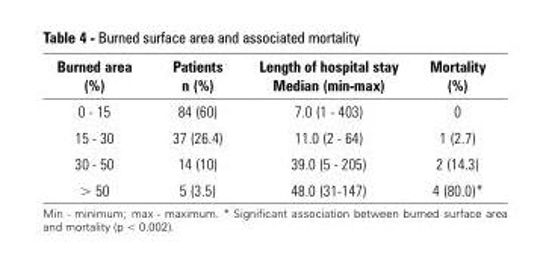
<table><thead><tr><td>Burned area (%)</td><td>Patients n (%)</td><td>Length of hospital stay Median (min-max)</td><td>Mortality (%)</td></tr></thead><tbody><tr><td>0 - 15</td><td>84 (60)</td><td>7.0 (1 - 403)</td><td>0</td></tr><tr><td>15 - 30</td><td>37 (26.4)</td><td>11.0 (2 - 64)</td><td>1 (2.7)</td></tr><tr><td>30 - 50</td><td>14 (10)</td><td>39.0 (5 - 205)</td><td>2 (14.3)</td></tr><tr><td>&gt; 50</td><td>5 (3.5)</td><td>48.0 (31-147)</td><td>4 (80.0)*</td></tr></tbody></table>